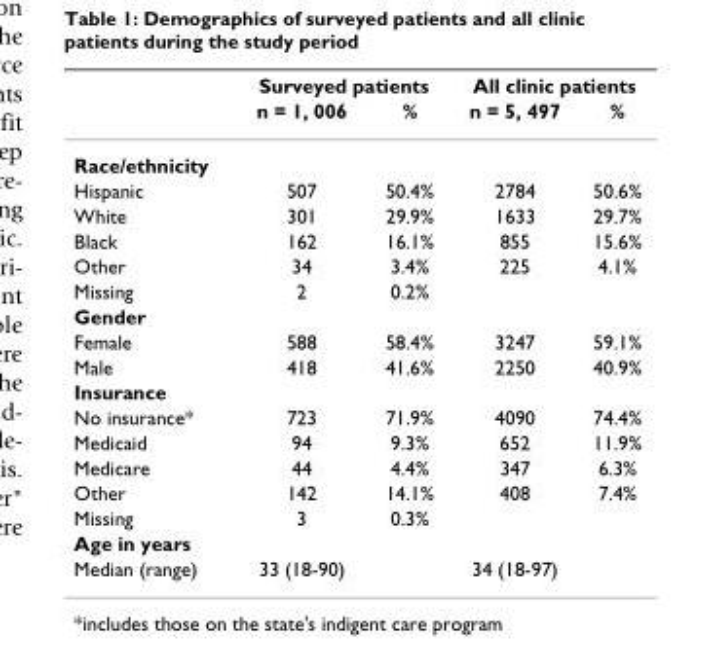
<table><thead><tr><td rowspan="2"></td><td colspan="2">Surveyed patients</td><td colspan="2">All clinic patients</td></tr><tr><td>n = 1, 006</td><td>%</td><td>n = 5, 497</td><td>%</td></tr></thead><tbody><tr><td colspan="5">Race/ethnicity</td></tr><tr><td>Hispanic</td><td>507</td><td>50.4%</td><td>2784</td><td>50.6%</td></tr><tr><td>White</td><td>301</td><td>29.9%</td><td>1633</td><td>29.7%</td></tr><tr><td>Black</td><td>162</td><td>16.1%</td><td>855</td><td>15.6%</td></tr><tr><td>Other</td><td>34</td><td>3.4%</td><td>225</td><td>4.1%</td></tr><tr><td>Missing</td><td>2</td><td>0.2%</td><td></td><td></td></tr><tr><td colspan="5">Gender</td></tr><tr><td>Female</td><td>588</td><td>58.4%</td><td>3247</td><td>59.1%</td></tr><tr><td>Male</td><td>418</td><td>41.6%</td><td>2250</td><td>40.9%</td></tr><tr><td colspan="5">Insurance</td></tr><tr><td>No insurance*</td><td>723</td><td>71.9%</td><td>4090</td><td>74.4%</td></tr><tr><td>Medicaid</td><td>94</td><td>9.3%</td><td>652</td><td>11.9%</td></tr><tr><td>Medicare</td><td>44</td><td>4.4%</td><td>347</td><td>6.3%</td></tr><tr><td>Other</td><td>142</td><td>14.1%</td><td>408</td><td>7.4%</td></tr><tr><td>Missing</td><td>3</td><td>0.3%</td><td></td><td></td></tr><tr><td colspan="5">Age in years</td></tr><tr><td>Median (range)</td><td>33 (18-90)</td><td></td><td>34 (18-97)</td><td></td></tr></tbody></table>